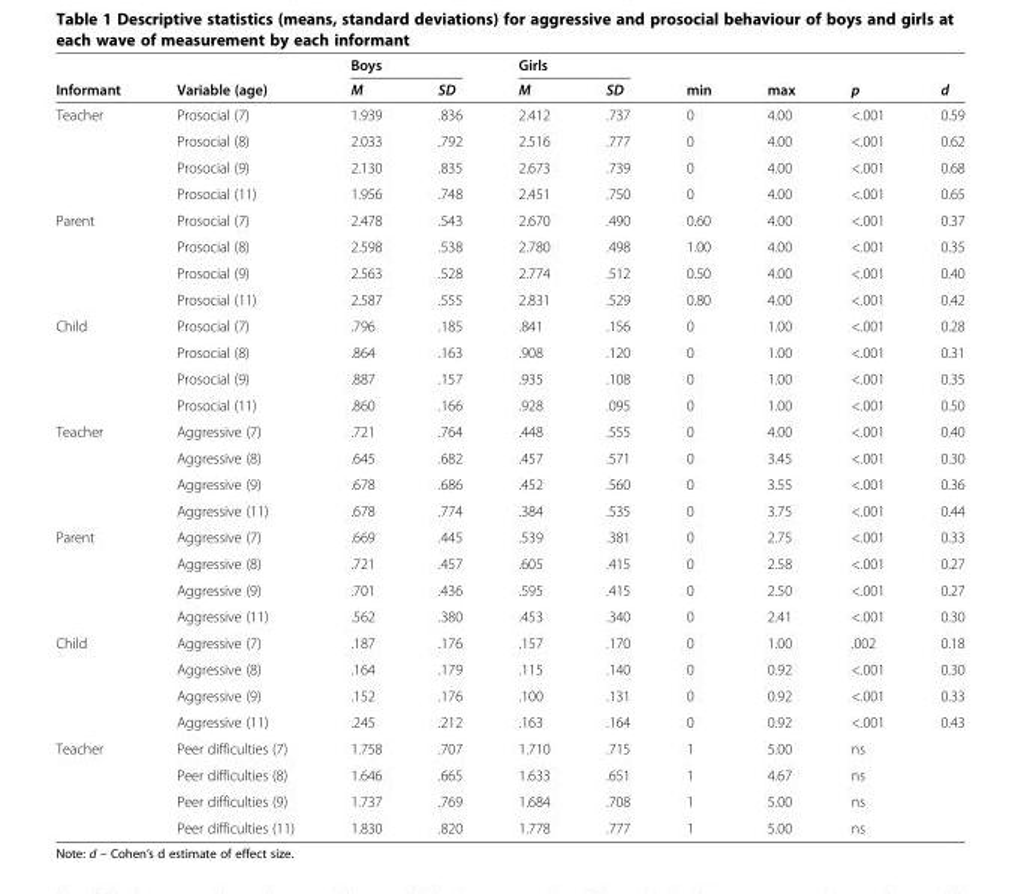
<table><thead><tr><td rowspan="2">Informant</td><td rowspan="2">Variable (age)</td><td colspan="2">Boys</td><td colspan="2">Girls</td><td rowspan="2">min</td><td rowspan="2">max</td><td rowspan="2">p</td><td rowspan="2">d</td></tr><tr><td>M</td><td>SD</td><td>M</td><td>SD</td></tr></thead><tbody><tr><td rowspan="4">Teacher</td><td>Prosocial (7)</td><td>1.939</td><td>.836</td><td>2.412</td><td>.737</td><td>0</td><td>4.00</td><td>&lt;.001</td><td>0.59</td></tr><tr><td>Prosocial (8)</td><td>2.033</td><td>.792</td><td>2.516</td><td>.777</td><td>0</td><td>4.00</td><td>&lt;.001</td><td>0.62</td></tr><tr><td>Prosocial (9)</td><td>2.130</td><td>.835</td><td>2.673</td><td>.739</td><td>0</td><td>4.00</td><td>&lt;.001</td><td>0.68</td></tr><tr><td>Prosocial (11)</td><td>1.956</td><td>.748</td><td>2.451</td><td>.750</td><td>0</td><td>4.00</td><td>&lt;.001</td><td>0.65</td></tr><tr><td rowspan="4">Parent</td><td>Prosocial (7)</td><td>2.478</td><td>.543</td><td>2.670</td><td>.490</td><td>0.60</td><td>4.00</td><td>&lt;.001</td><td>0.37</td></tr><tr><td>Prosocial (8)</td><td>2.598</td><td>.538</td><td>2.780</td><td>.498</td><td>1.00</td><td>4.00</td><td>&lt;.001</td><td>0.35</td></tr><tr><td>Prosocial (9)</td><td>2.563</td><td>.528</td><td>2.774</td><td>.512</td><td>0.50</td><td>4.00</td><td>&lt;.001</td><td>0.40</td></tr><tr><td>Prosocial (11)</td><td>2.587</td><td>.555</td><td>2.831</td><td>.529</td><td>0.80</td><td>4.00</td><td>&lt;.001</td><td>0.42</td></tr><tr><td rowspan="4">Child</td><td>Prosocial (7)</td><td>.796</td><td>.185</td><td>.841</td><td>.156</td><td>0</td><td>1.00</td><td>&lt;.001</td><td>0.28</td></tr><tr><td>Prosocial (8)</td><td>.864</td><td>.163</td><td>.908</td><td>.120</td><td>0</td><td>1.00</td><td>&lt;.001</td><td>0.31</td></tr><tr><td>Prosocial (9)</td><td>.887</td><td>.157</td><td>.935</td><td>.108</td><td>0</td><td>1.00</td><td>&lt;.001</td><td>0.35</td></tr><tr><td>Prosocial (11)</td><td>.860</td><td>.166</td><td>.928</td><td>.095</td><td>0</td><td>1.00</td><td>&lt;.001</td><td>0.50</td></tr><tr><td rowspan="4">Teacher</td><td>Aggressive (7)</td><td>.721</td><td>.764</td><td>.448</td><td>.555</td><td>0</td><td>4.00</td><td>&lt;.001</td><td>0.40</td></tr><tr><td>Aggressive (8)</td><td>.645</td><td>.682</td><td>.457</td><td>.571</td><td>0</td><td>3.45</td><td>&lt;.001</td><td>0.30</td></tr><tr><td>Aggressive (9)</td><td>.678</td><td>.686</td><td>.452</td><td>.560</td><td>0</td><td>3.55</td><td>&lt;.001</td><td>0.36</td></tr><tr><td>Aggressive (11)</td><td>.678</td><td>.774</td><td>.384</td><td>.535</td><td>0</td><td>3.75</td><td>&lt;.001</td><td>0.44</td></tr><tr><td rowspan="4">Parent</td><td>Aggressive (7)</td><td>.669</td><td>.445</td><td>.539</td><td>.381</td><td>0</td><td>2.75</td><td>&lt;.001</td><td>0.33</td></tr><tr><td>Aggressive (8)</td><td>.721</td><td>.457</td><td>.605</td><td>.415</td><td>0</td><td>2.58</td><td>&lt;.001</td><td>0.27</td></tr><tr><td>Aggressive (9)</td><td>.701</td><td>.436</td><td>.595</td><td>.415</td><td>0</td><td>2.50</td><td>&lt;.001</td><td>0.27</td></tr><tr><td>Aggressive (11)</td><td>.562</td><td>.380</td><td>.453</td><td>.340</td><td>0</td><td>2.41</td><td>&lt;.001</td><td>0.30</td></tr><tr><td rowspan="4">Child</td><td>Aggressive (7)</td><td>.187</td><td>.176</td><td>.157</td><td>.170</td><td>0</td><td>1.00</td><td>.002</td><td>0.18</td></tr><tr><td>Aggressive (8)</td><td>.164</td><td>.179</td><td>.115</td><td>.140</td><td>0</td><td>0.92</td><td>&lt;.001</td><td>0.30</td></tr><tr><td>Aggressive (9)</td><td>.152</td><td>.176</td><td>.100</td><td>.131</td><td>0</td><td>0.92</td><td>&lt;.001</td><td>0.33</td></tr><tr><td>Aggressive (11)</td><td>.245</td><td>.212</td><td>.163</td><td>.164</td><td>0</td><td>0.92</td><td>&lt;.001</td><td>0.43</td></tr><tr><td rowspan="4">Teacher</td><td>Peer difficulties (7)</td><td>1.758</td><td>.707</td><td>1.710</td><td>.715</td><td>1</td><td>5.00</td><td>ns</td><td></td></tr><tr><td>Peer difficulties (8)</td><td>1.646</td><td>.665</td><td>1.633</td><td>.651</td><td>1</td><td>4.67</td><td>ns</td><td></td></tr><tr><td>Peer difficulties (9)</td><td>1.737</td><td>.769</td><td>1.684</td><td>.708</td><td>1</td><td>5.00</td><td>ns</td><td></td></tr><tr><td>Peer difficulties (11)</td><td>1.830</td><td>.820</td><td>1.778</td><td>.777</td><td>1</td><td>5.00</td><td>ns</td><td></td></tr></tbody></table>